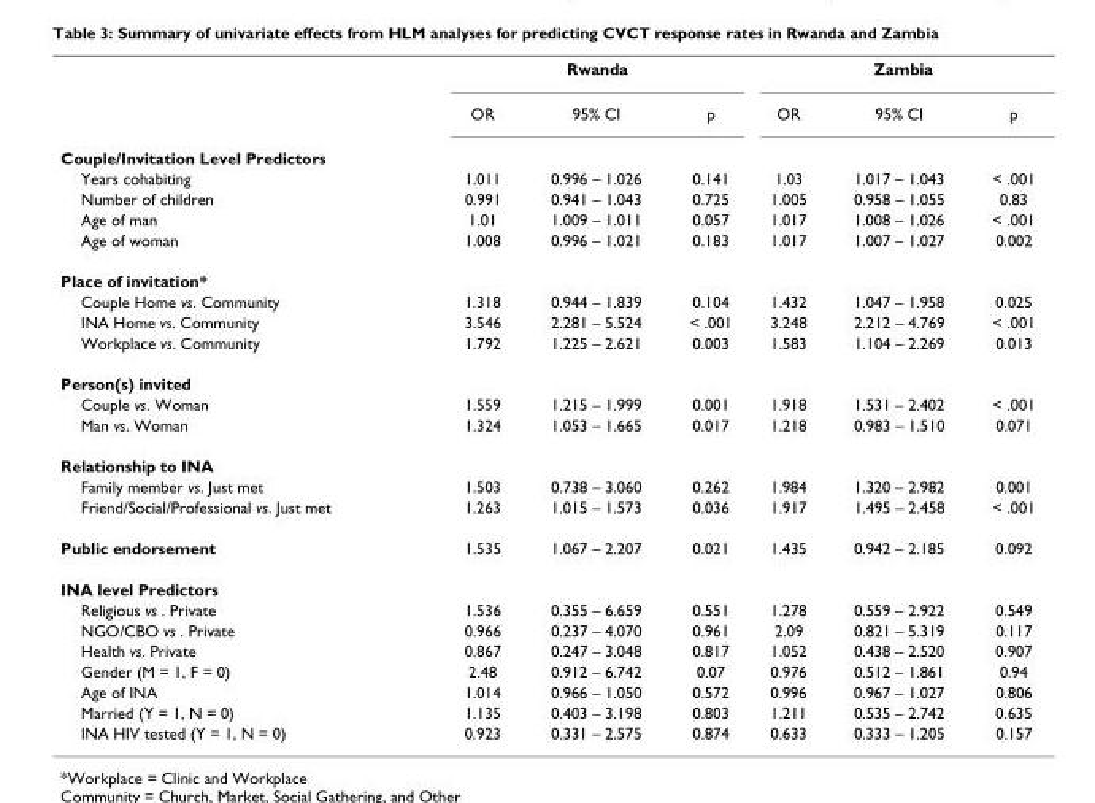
<table><thead><tr><td rowspan="2"></td><td colspan="3">Rwanda</td><td colspan="3">Zambia</td></tr><tr><td>OR</td><td>95% CI</td><td>p</td><td>OR</td><td>95% CI</td><td>p</td></tr></thead><tbody><tr><td colspan="7">Couple/Invitation Level Predictors</td></tr><tr><td>Years cohabiting</td><td>1.011</td><td>0.996 – 1.026</td><td>0.141</td><td>1.03</td><td>1.017 – 1.043</td><td>&lt; .001</td></tr><tr><td>Number of children</td><td>0.991</td><td>0.941 – 1.043</td><td>0.725</td><td>1.005</td><td>0.958 – 1.055</td><td>0.83</td></tr><tr><td>Age of man</td><td>1.01</td><td>1.009 – 1.011</td><td>0.057</td><td>1.017</td><td>1.008 – 1.026</td><td>&lt; .001</td></tr><tr><td>Age of woman</td><td>1.008</td><td>0.996 – 1.021</td><td>0.183</td><td>1.017</td><td>1.007 – 1.027</td><td>0.002</td></tr><tr><td colspan="7">Place of invitation*</td></tr><tr><td>Couple Home vs. Community</td><td>1.318</td><td>0.944 – 1.839</td><td>0.104</td><td>1.432</td><td>1.047 – 1.958</td><td>0.025</td></tr><tr><td>INA Home vs. Community</td><td>3.546</td><td>2.281 – 5.524</td><td>&lt; .001</td><td>3.248</td><td>2.212 – 4.769</td><td>&lt; .001</td></tr><tr><td>Workplace vs. Community</td><td>1.792</td><td>1.225 – 2.621</td><td>0.003</td><td>1.583</td><td>1.104 – 2.269</td><td>0.013</td></tr><tr><td colspan="7">Person(s) invited</td></tr><tr><td>Couple vs. Woman</td><td>1.559</td><td>1.215 – 1.999</td><td>0.001</td><td>1.918</td><td>1.531 – 2.402</td><td>&lt; .001</td></tr><tr><td>Man vs. Woman</td><td>1.324</td><td>1.053 – 1.665</td><td>0.017</td><td>1.218</td><td>0.983 – 1.510</td><td>0.071</td></tr><tr><td colspan="7">Relationship to INA</td></tr><tr><td>Family member vs. Just met</td><td>1.503</td><td>0.738 – 3.060</td><td>0.262</td><td>1.984</td><td>1.320 – 2.982</td><td>0.001</td></tr><tr><td>Friend/Social/Professional vs. Just met</td><td>1.263</td><td>1.015 – 1.573</td><td>0.036</td><td>1.917</td><td>1.495 – 2.458</td><td>&lt; .001</td></tr><tr><td>Public endorsement</td><td>1.535</td><td>1.067 – 2.207</td><td>0.021</td><td>1.435</td><td>0.942 – 2.185</td><td>0.092</td></tr><tr><td colspan="7">INA level Predictors</td></tr><tr><td>Religious vs . Private</td><td>1.536</td><td>0.355 – 6.659</td><td>0.551</td><td>1.278</td><td>0.559 – 2.922</td><td>0.549</td></tr><tr><td>NGO/CBO vs . Private</td><td>0.966</td><td>0.237 – 4.070</td><td>0.961</td><td>2.09</td><td>0.821 – 5.319</td><td>0.117</td></tr><tr><td>Health vs. Private</td><td>0.867</td><td>0.247 – 3.048</td><td>0.817</td><td>1.052</td><td>0.438 – 2.520</td><td>0.907</td></tr><tr><td>Gender (M = 1, F = 0)</td><td>2.48</td><td>0.912 – 6.742</td><td>0.07</td><td>0.976</td><td>0.512 – 1.861</td><td>0.94</td></tr><tr><td>Age of INA</td><td>1.014</td><td>0.966 – 1.050</td><td>0.572</td><td>0.996</td><td>0.967 – 1.027</td><td>0.806</td></tr><tr><td>Married (Y = 1, N = 0)</td><td>1.135</td><td>0.403 – 3.198</td><td>0.803</td><td>1.211</td><td>0.535 – 2.742</td><td>0.635</td></tr><tr><td>INA HIV tested (Y = 1, N = 0)</td><td>0.923</td><td>0.331 – 2.575</td><td>0.874</td><td>0.633</td><td>0.333 – 1.205</td><td>0.157</td></tr></tbody></table>